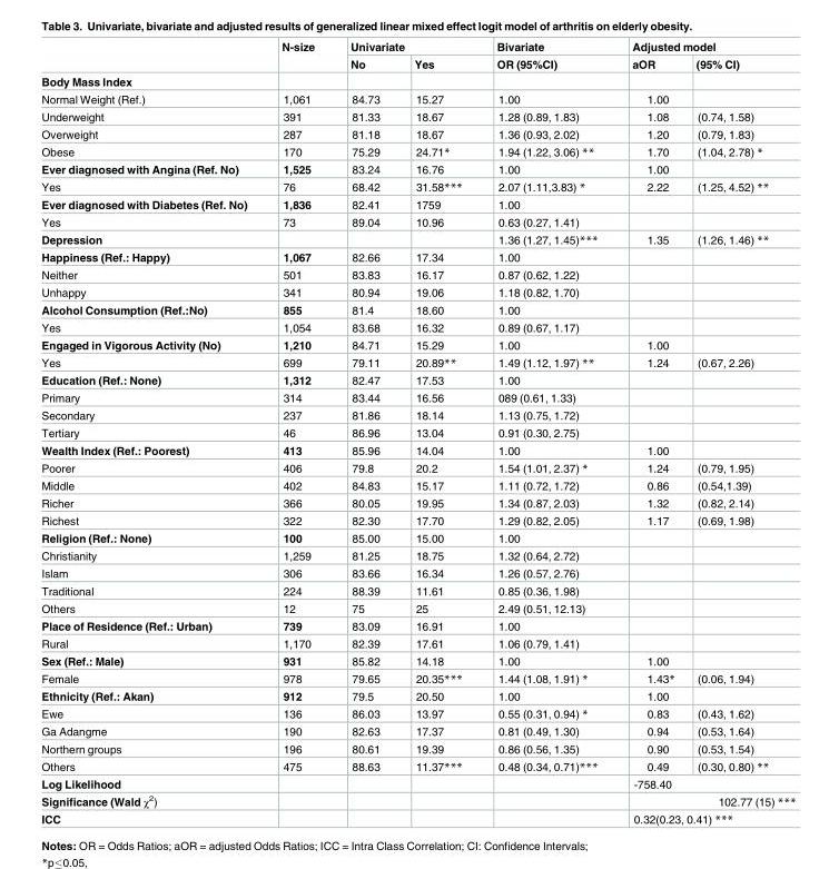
<table><thead><tr><td rowspan="2"></td><td rowspan="2">N-size</td><td colspan="2">Univariate</td><td rowspan="2">Bivariate OR (95%CI)</td><td colspan="2">Adjusted model</td></tr><tr><td>No</td><td>Yes</td><td>aOR</td><td>(95% CI)</td></tr></thead><tbody><tr><td colspan="7">Body Mass Index</td></tr><tr><td>Normal Weight (Ref.)</td><td>1,061</td><td>84.73</td><td>15.27</td><td>1.00</td><td>1.00</td><td></td></tr><tr><td>Underweight</td><td>391</td><td>81.33</td><td>18.67</td><td>1.28 (0.89, 1.83)</td><td>1.08</td><td>(0.74, 1.58)</td></tr><tr><td>Overweight</td><td>287</td><td>81.18</td><td>18.67</td><td>1.36 (0.93, 2.02)</td><td>1.20</td><td>(0.79, 1.83)</td></tr><tr><td>Obese</td><td>170</td><td>75.29</td><td>24.71*</td><td>1.94 (1.22, 3.06) **</td><td>1.70</td><td>(1.04, 2.78) *</td></tr><tr><td>Ever diagnosed with Angina (Ref. No)</td><td>1,525</td><td>83.24</td><td>16.76</td><td>1.00</td><td>1.00</td><td></td></tr><tr><td>Yes</td><td>76</td><td>68.42</td><td>31.58***</td><td>2.07 (1.11,3.83) *</td><td>2.22</td><td>(1.25, 4.52) **</td></tr><tr><td>Ever diagnosed with Diabetes (Ref. No)</td><td>1,836</td><td>82.41</td><td>1759</td><td>1.00</td><td></td><td></td></tr><tr><td>Yes</td><td>73</td><td>89.04</td><td>10.96</td><td>0.63 (0.27, 1.41)</td><td></td><td></td></tr><tr><td>Depression</td><td></td><td></td><td></td><td>1.36 (1.27, 1.45)***</td><td>1.35</td><td>(1.26, 1.46) **</td></tr><tr><td>Happiness (Ref.: Happy)</td><td>1,067</td><td>82.66</td><td>17.34</td><td>1.00</td><td></td><td></td></tr><tr><td>Neither</td><td>501</td><td>83.83</td><td>16.17</td><td>0.87 (0.62, 1.22)</td><td></td><td></td></tr><tr><td>Unhappy</td><td>341</td><td>80.94</td><td>19.06</td><td>1.18 (0.82, 1.70)</td><td></td><td></td></tr><tr><td>Alcohol Consumption (Ref.:No)</td><td>855</td><td>81.4</td><td>18.60</td><td>1.00</td><td></td><td></td></tr><tr><td>Yes</td><td>1,054</td><td>83.68</td><td>16.32</td><td>0.89 (0.67, 1.17)</td><td></td><td></td></tr><tr><td>Engaged in Vigorous Activity (No)</td><td>1,210</td><td>84.71</td><td>15.29</td><td>1.00</td><td>1.00</td><td></td></tr><tr><td>Yes</td><td>699</td><td>79.11</td><td>20.89**</td><td>1.49 (1.12, 1.97) **</td><td>1.24</td><td>(0.67, 2.26)</td></tr><tr><td>Education (Ref.: None)</td><td>1,312</td><td>82.47</td><td>17.53</td><td>1.00</td><td></td><td></td></tr><tr><td>Primary</td><td>314</td><td>83.44</td><td>16.56</td><td>089 (0.61, 1.33)</td><td></td><td></td></tr><tr><td>Secondary</td><td>237</td><td>81.86</td><td>18.14</td><td>1.13 (0.75, 1.72)</td><td></td><td></td></tr><tr><td>Tertiary</td><td>46</td><td>86.96</td><td>13.04</td><td>0.91 (0.30, 2.75)</td><td></td><td></td></tr><tr><td>Wealth Index (Ref.: Poorest)</td><td>413</td><td>85.96</td><td>14.04</td><td>1.00</td><td>1.00</td><td></td></tr><tr><td>Poorer</td><td>406</td><td>79.8</td><td>20.2</td><td>1.54 (1.01, 2.37) *</td><td>1.24</td><td>(0.79, 1.95)</td></tr><tr><td>Middle</td><td>402</td><td>84.83</td><td>15.17</td><td>1.11 (0.72, 1.72)</td><td>0.86</td><td>(0.54,1.39)</td></tr><tr><td>Richer</td><td>366</td><td>80.05</td><td>19.95</td><td>1.34 (0.87, 2.03)</td><td>1.32</td><td>(0.82, 2.14)</td></tr><tr><td>Richest</td><td>322</td><td>82.30</td><td>17.70</td><td>1.29 (0.82, 2.05)</td><td>1.17</td><td>(0.69, 1.98)</td></tr><tr><td>Religion (Ref.: None)</td><td>100</td><td>85.00</td><td>15.00</td><td>1.00</td><td></td><td></td></tr><tr><td>Christianity</td><td>1,259</td><td>81.25</td><td>18.75</td><td>1.32 (0.64, 2.72)</td><td></td><td></td></tr><tr><td>Islam</td><td>306</td><td>83.66</td><td>16.34</td><td>1.26 (0.57, 2.76)</td><td></td><td></td></tr><tr><td>Traditional</td><td>224</td><td>88.39</td><td>11.61</td><td>0.85 (0.36, 1.98)</td><td></td><td></td></tr><tr><td>Others</td><td>12</td><td>75</td><td>25</td><td>2.49 (0.51, 12.13)</td><td></td><td></td></tr><tr><td>Place of Residence (Ref.: Urban)</td><td>739</td><td>83.09</td><td>16.91</td><td>1.00</td><td></td><td></td></tr><tr><td>Rural</td><td>1,170</td><td>82.39</td><td>17.61</td><td>1.06 (0.79, 1.41)</td><td></td><td></td></tr><tr><td>Sex (Ref.: Male)</td><td>931</td><td>85.82</td><td>14.18</td><td>1.00</td><td>1.00</td><td></td></tr><tr><td>Female</td><td>978</td><td>79.65</td><td>20.35***</td><td>1.44 (1.08, 1.91) *</td><td>1.43*</td><td>(0.06, 1.94)</td></tr><tr><td>Ethnicity (Ref.: Akan)</td><td>912</td><td>79.5</td><td>20.50</td><td>1.00</td><td>1.00</td><td></td></tr><tr><td>Ewe</td><td>136</td><td>86.03</td><td>13.97</td><td>0.55 (0.31, 0.94) *</td><td>0.83</td><td>(0.43, 1.62)</td></tr><tr><td>Ga Adangme</td><td>190</td><td>82.63</td><td>17.37</td><td>0.81 (0.49, 1.30)</td><td>0.94</td><td>(0.53, 1.64)</td></tr><tr><td>Northern groups</td><td>196</td><td>80.61</td><td>19.39</td><td>0.86 (0.56, 1.35)</td><td>0.90</td><td>(0.53, 1.54)</td></tr><tr><td>Others</td><td>475</td><td>88.63</td><td>11.37***</td><td>0.48 (0.34, 0.71)***</td><td>0.49</td><td>(0.30, 0.80) **</td></tr><tr><td>Log Likelihood</td><td></td><td></td><td></td><td></td><td colspan="2">-758.40</td></tr><tr><td>Significance (Wald χ<sup>2</sup>)</td><td></td><td></td><td></td><td></td><td colspan="2">102.77 (15) ***</td></tr><tr><td>ICC</td><td></td><td></td><td></td><td></td><td colspan="2">0.32(0.23, 0.41) ***</td></tr></tbody></table>